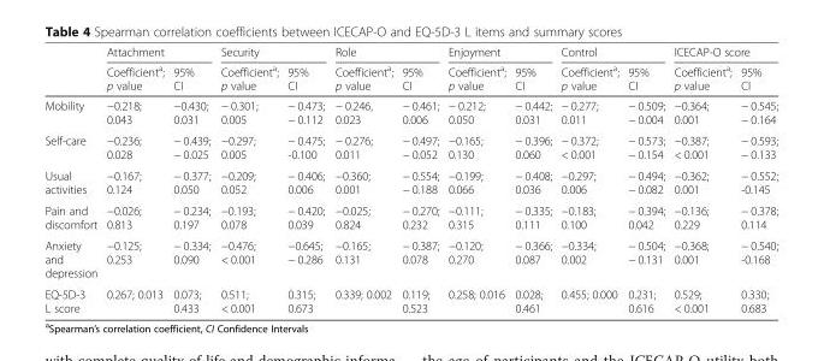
<table><thead><tr><td rowspan="2"></td><td colspan="2">Attachment</td><td colspan="2">Security</td><td colspan="2">Role</td><td colspan="2">Enjoyment</td><td colspan="2">Control</td><td colspan="2">ICECAP-O score</td></tr><tr><td>Coefficient<sup>a</sup>; p value</td><td>95% CI</td><td>Coefficient<sup>a</sup>; p value</td><td>95% CI</td><td>Coefficient<sup>a</sup>; p value</td><td>95% CI</td><td>Coefficient<sup>a</sup>; p value</td><td>95% CI</td><td>Coefficient<sup>a</sup>; p value</td><td>95% CI</td><td>Coefficient<sup>a</sup>; p value</td><td>95% CI</td></tr></thead><tbody><tr><td>Mobility</td><td>−0.218; 0.043</td><td>−0.430; 0.031</td><td>− 0.301; 0.005</td><td>− 0.473; − 0.112</td><td>− 0.246, 0.023</td><td>− 0.461; 0.006</td><td>− 0.212; 0.050</td><td>− 0.442; 0.031</td><td>− 0.277; 0.011</td><td>− 0.509; − 0.004</td><td>−0.364; 0.001</td><td>− 0.545; − 0.164</td></tr><tr><td>Self-care</td><td>−0.236; 0.028</td><td>− 0.439; − 0.025</td><td>−0.297; 0.005</td><td>− 0.475; -0.100</td><td>− 0.276; 0.011</td><td>− 0.497; − 0.052</td><td>−0.165; 0.130</td><td>− 0.396; 0.060</td><td>− 0.372; &lt; 0.001</td><td>− 0.573; − 0.154</td><td>−0.387; &lt; 0.001</td><td>− 0.593; − 0.133</td></tr><tr><td>Usual activities</td><td>−0.167; 0.124</td><td>− 0.377; 0.050</td><td>−0.209; 0.052</td><td>− 0.406; 0.006</td><td>−0.360; 0.001</td><td>− 0.554; − 0.188</td><td>−0.199; 0.066</td><td>− 0.408; 0.036</td><td>−0.297; 0.006</td><td>− 0.494; − 0.082</td><td>−0.362; 0.001</td><td>− 0.552; -0.145</td></tr><tr><td>Pain and discomfort</td><td>−0.026; 0.813</td><td>− 0.234; 0.197</td><td>−0.193; 0.078</td><td>− 0.420; 0.039</td><td>−0.025; 0.824</td><td>− 0.270; 0.232</td><td>−0.111; 0.315</td><td>− 0.335; 0.111</td><td>−0.183; 0.100</td><td>− 0.394; 0.042</td><td>−0.136; 0.229</td><td>− 0.378; 0.114</td></tr><tr><td>Anxiety and depression</td><td>−0.125; 0.253</td><td>− 0.334; 0.090</td><td>−0.476; &lt; 0.001</td><td>−0.645; − 0.286</td><td>−0.165; 0.131</td><td>− 0.387; 0.078</td><td>−0.120; 0.270</td><td>− 0.366; 0.087</td><td>−0.334; 0.002</td><td>− 0.504; − 0.131</td><td>−0.368; 0.001</td><td>− 0.540; -0.168</td></tr><tr><td>EQ-5D-3 L score</td><td>0.267; 0.013</td><td>0.073; 0.433</td><td>0.511; &lt; 0.001</td><td>0.315; 0.673</td><td>0.339; 0.002</td><td>0.119; 0.523</td><td>0.258; 0.016</td><td>0.028; 0.461</td><td>0.455; 0.000</td><td>0.231; 0.616</td><td>0.529; &lt; 0.001</td><td>0.330; 0.683</td></tr></tbody></table>